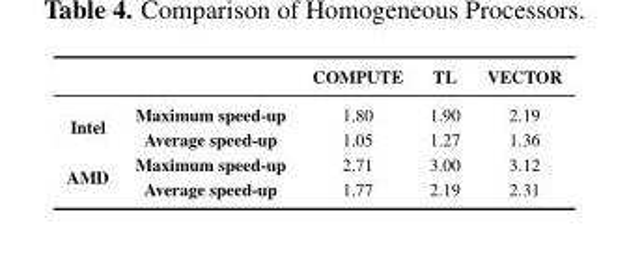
<table><thead><tr><td></td><td></td><td>COMPUTE</td><td>TL</td><td>VECTOR</td></tr></thead><tbody><tr><td rowspan="2">Intel</td><td>Maximum speed-up</td><td>1.80</td><td>1.90</td><td>2.19</td></tr><tr><td>Average speed-up</td><td>1.05</td><td>1.27</td><td>1.36</td></tr><tr><td rowspan="2">AMD</td><td>Maximum speed-up</td><td>2.71</td><td>3.00</td><td>3.12</td></tr><tr><td>Average speed-up</td><td>1.77</td><td>2.19</td><td>2.31</td></tr></tbody></table>